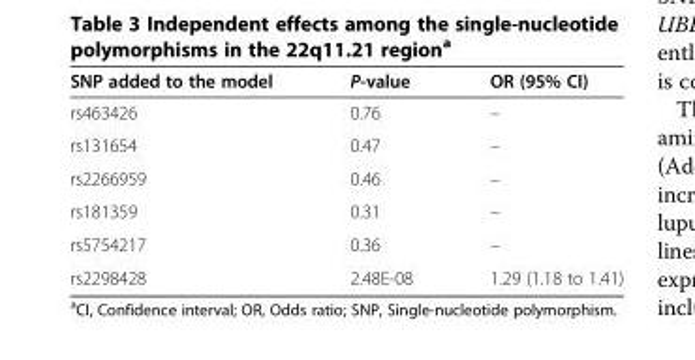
<table><thead><tr><td>SNP added to the model</td><td>P-value</td><td>OR (95% CI)</td></tr></thead><tbody><tr><td>rs463426</td><td>0.76</td><td>–</td></tr><tr><td>rs131654</td><td>0.47</td><td>–</td></tr><tr><td>rs2266959</td><td>0.46</td><td>–</td></tr><tr><td>rs181359</td><td>0.31</td><td>–</td></tr><tr><td>rs5754217</td><td>0.36</td><td>–</td></tr><tr><td>rs2298428</td><td>2.48E-08</td><td>1.29 (1.18 to 1.41)</td></tr></tbody></table>